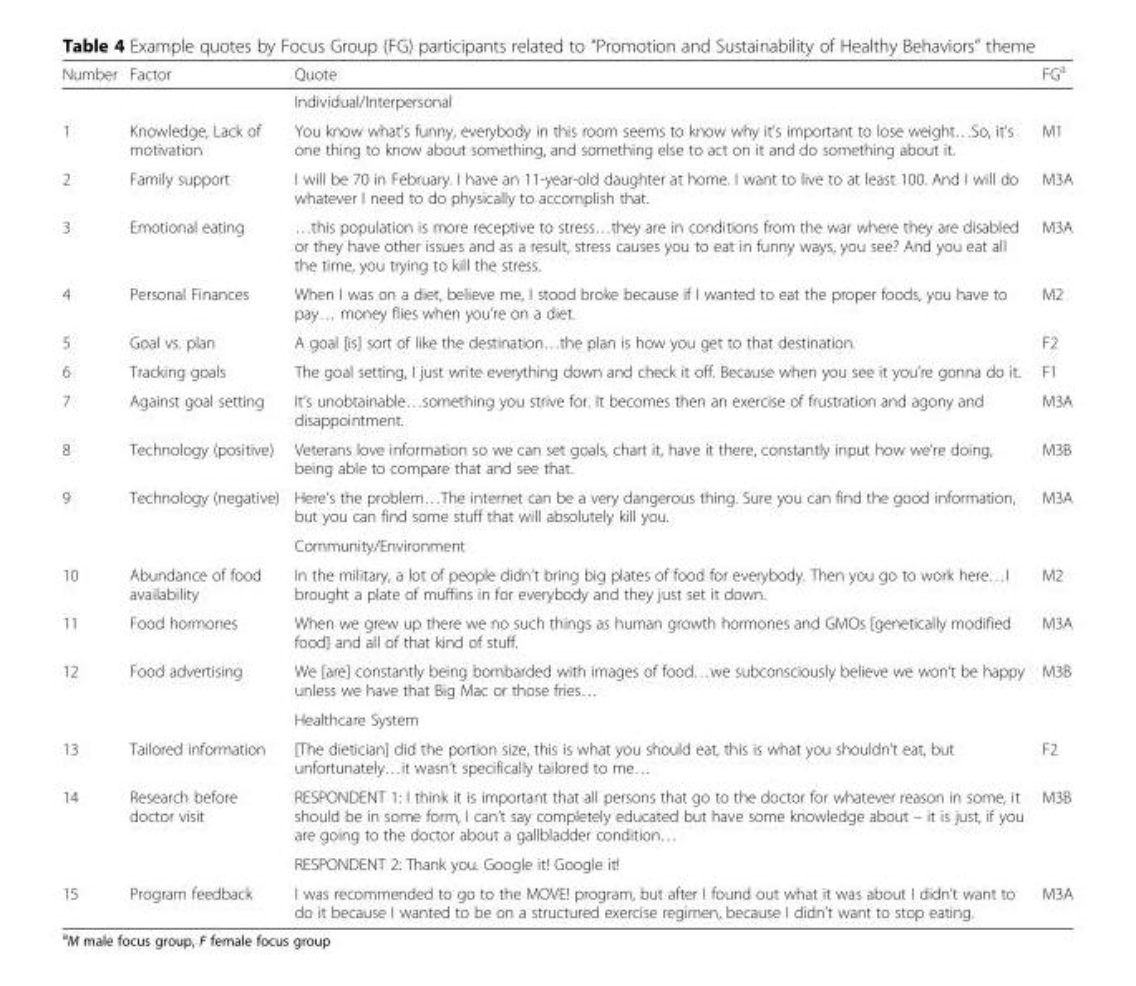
<table><thead><tr><td>Number</td><td>Factor</td><td>Quote</td><td>FG<sup>a</sup></td></tr></thead><tbody><tr><td></td><td></td><td colspan="2">Individual/Interpersonal</td></tr><tr><td>1</td><td>Knowledge, Lack of motivation</td><td>You know what’s funny, everybody in this room seems to know why it’s important to lose weight…So, it’s one thing to know about something, and something else to act on it and do something about it.</td><td>M1</td></tr><tr><td>2</td><td>Family support</td><td>I will be 70 in February. I have an 11-year-old daughter at home. I want to live to at least 100. And I will do whatever I need to do physically to accomplish that.</td><td>M3A</td></tr><tr><td>3</td><td>Emotional eating</td><td>…this population is more receptive to stress…they are in conditions from the war where they are disabled or they have other issues and as a result, stress causes you to eat in funny ways, you see? And you eat all the time, you trying to kill the stress.</td><td>M3A</td></tr><tr><td>4</td><td>Personal Finances</td><td>When I was on a diet, believe me, I stood broke because if I wanted to eat the proper foods, you have to pay… money flies when you’re on a diet.</td><td>M2</td></tr><tr><td>5</td><td>Goal vs. plan</td><td>A goal [is] sort of like the destination…the plan is how you get to that destination.</td><td>F2</td></tr><tr><td>6</td><td>Tracking goals</td><td>The goal setting, I just write everything down and check it off. Because when you see it you’re gonna do it.</td><td>F1</td></tr><tr><td>7</td><td>Against goal setting</td><td>It’s unobtainable…something you strive for. It becomes then an exercise of frustration and agony and disappointment.</td><td>M3A</td></tr><tr><td>8</td><td>Technology (positive)</td><td>Veterans love information so we can set goals, chart it, have it there, constantly input how we’re doing, being able to compare that and see that.</td><td>M3B</td></tr><tr><td rowspan="2">9</td><td>Technology (negative)</td><td>Here’s the problem…The internet can be a very dangerous thing. Sure you can find the good information, but you can find some stuff that will absolutely kill you.</td><td>M3A</td></tr><tr><td></td><td colspan="2">Community/Environment</td></tr><tr><td>10</td><td>Abundance of food availability</td><td>In the military, a lot of people didn’t bring big plates of food for everybody. Then you go to work here…I brought a plate of muffins in for everybody and they just set it down.</td><td>M2</td></tr><tr><td>11</td><td>Food hormones</td><td>When we grew up there we no such things as human growth hormones and GMOs [genetically modified food] and all of that kind of stuff.</td><td>M3A</td></tr><tr><td rowspan="2">12</td><td>Food advertising</td><td>We [are] constantly being bombarded with images of food…we subconsciously believe we won’t be happy unless we have that Big Mac or those fries…</td><td>M3B</td></tr><tr><td></td><td colspan="2">Healthcare System</td></tr><tr><td>13</td><td>Tailored information</td><td>[The dietician] did the portion size, this is what you should eat, this is what you shouldn’t eat, but unfortunately…it wasn’t specifically tailored to me…</td><td>F2</td></tr><tr><td rowspan="2">14</td><td rowspan="2">Research before doctor visit</td><td>RESPONDENT 1: I think it is important that all persons that go to the doctor for whatever reason in some, it should be in some form, I can’t say completely educated but have some knowledge about – it is just, if you are going to the doctor about a gallbladder condition…</td><td rowspan="2">M3B</td></tr><tr><td>RESPONDENT 2: Thank you. Google it! Google it!</td></tr><tr><td>15</td><td>Program feedback</td><td>I was recommended to go to the MOVE! program, but after I found out what it was about I didn’t want to do it because I wanted to be on a structured exercise regimen, because I didn’t want to stop eating.</td><td>M3A</td></tr></tbody></table>